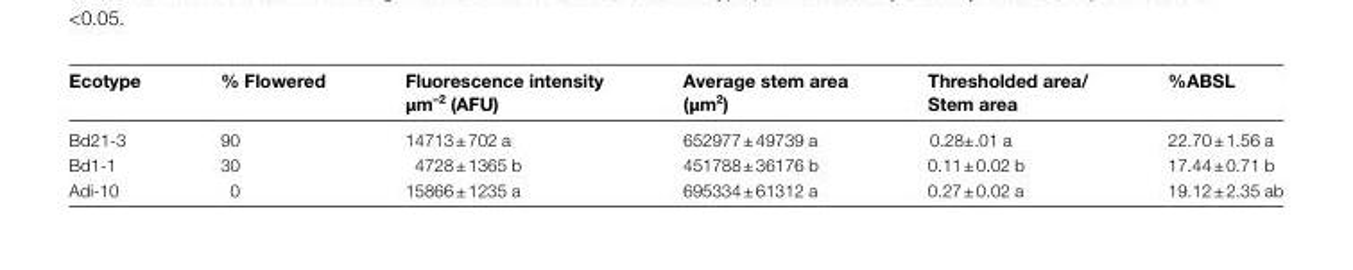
<table><thead><tr><td>Ecotype</td><td>% Flowered</td><td>Fluorescence intensity μm<sup>–2</sup> (AFU)</td><td>Average stem area (μm<sup>2</sup>)</td><td>Thresholded area/ Stem area</td><td>%ABSL</td></tr></thead><tbody><tr><td>Bd21-3</td><td>90</td><td>14713 ± 702 a</td><td>652977 ± 49739 a</td><td>0.28±.01 a</td><td>22.70 ± 1.56 a</td></tr><tr><td>Bd1-1</td><td>30</td><td>4728 ± 1365 b</td><td>451788 ± 36176 b</td><td>0.11 ± 0.02 b</td><td>17.44 ± 0.71 b</td></tr><tr><td>Adi-10</td><td>0</td><td>15866 ± 1235 a</td><td>695334 ± 61312 a</td><td>0.27 ± 0.02 a</td><td>19.12 ± 2.35 ab</td></tr></tbody></table>